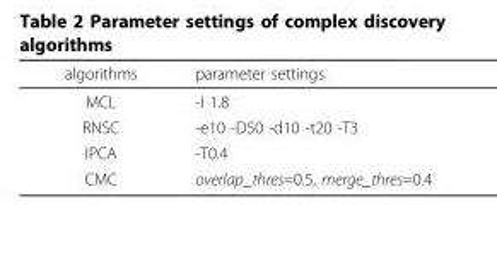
<table><thead><tr><td>algorithms</td><td>parameter settings</td></tr></thead><tbody><tr><td>MCL</td><td>-I 1.8</td></tr><tr><td>RNSC</td><td>-e10 -D50 -d10 -t20 -T3</td></tr><tr><td>IPCA</td><td>-T0.4</td></tr><tr><td>CMC</td><td>overlap_thres=0.5, merge_thres=0.4</td></tr></tbody></table>